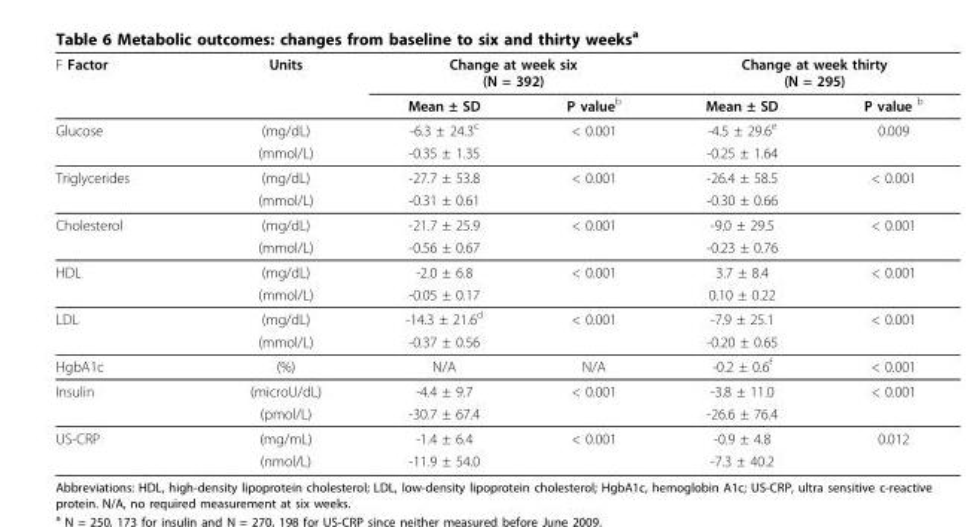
<table><thead><tr><td rowspan="2">F Factor</td><td rowspan="2">Units</td><td colspan="2">Change at week six (N = 392)</td><td colspan="2">Change at week thirty (N = 295)</td></tr><tr><td>Mean ± SD</td><td>P value<sup>b</sup></td><td>Mean ± SD</td><td>P value <sup>b</sup></td></tr></thead><tbody><tr><td rowspan="2">Glucose</td><td>(mg/dL)</td><td>-6.3 ± 24.3<sup>c</sup></td><td>&lt; 0.001</td><td>-4.5 ± 29.6<sup>e</sup></td><td>0.009</td></tr><tr><td>(mmol/L)</td><td>-0.35 ± 1.35</td><td></td><td>-0.25 ± 1.64</td><td></td></tr><tr><td rowspan="2">Triglycerides</td><td>(mg/dL)</td><td>-27.7 ± 53.8</td><td>&lt; 0.001</td><td>-26.4 ± 58.5</td><td>&lt; 0.001</td></tr><tr><td>(mmol/L)</td><td>-0.31 ± 0.61</td><td></td><td>-0.30 ± 0.66</td><td></td></tr><tr><td rowspan="2">Cholesterol</td><td>(mg/dL)</td><td>-21.7 ± 25.9</td><td>&lt; 0.001</td><td>-9.0 ± 29.5</td><td>&lt; 0.001</td></tr><tr><td>(mmol/L)</td><td>-0.56 ± 0.67</td><td></td><td>-0.23 ± 0.76</td><td></td></tr><tr><td rowspan="2">HDL</td><td>(mg/dL)</td><td>-2.0 ± 6.8</td><td>&lt; 0.001</td><td>3.7 ± 8.4</td><td>&lt; 0.001</td></tr><tr><td>(mmol/L)</td><td>-0.05 ± 0.17</td><td></td><td>0.10 ± 0.22</td><td></td></tr><tr><td rowspan="2">LDL</td><td>(mg/dL)</td><td>-14.3 ± 21.6<sup>d</sup></td><td>&lt; 0.001</td><td>-7.9 ± 25.1</td><td>&lt; 0.001</td></tr><tr><td>(mmol/L)</td><td>-0.37 ± 0.56</td><td></td><td>-0.20 ± 0.65</td><td></td></tr><tr><td>HgbA1c</td><td>(%)</td><td>N/A</td><td>N/A</td><td>-0.2 ± 0.6<sup>f</sup></td><td>&lt; 0.001</td></tr><tr><td rowspan="2">Insulin</td><td>(microU/dL)</td><td>-4.4 ± 9.7</td><td>&lt; 0.001</td><td>-3.8 ± 11.0</td><td>&lt; 0.001</td></tr><tr><td>(pmol/L)</td><td>-30.7 ± 67.4</td><td></td><td>-26.6 ± 76.4</td><td></td></tr><tr><td rowspan="2">US-CRP</td><td>(mg/mL)</td><td>-1.4 ± 6.4</td><td>&lt; 0.001</td><td>-0.9 ± 4.8</td><td>0.012</td></tr><tr><td>(nmol/L)</td><td>-11.9 ± 54.0</td><td></td><td>-7.3 ± 40.2</td><td></td></tr></tbody></table>